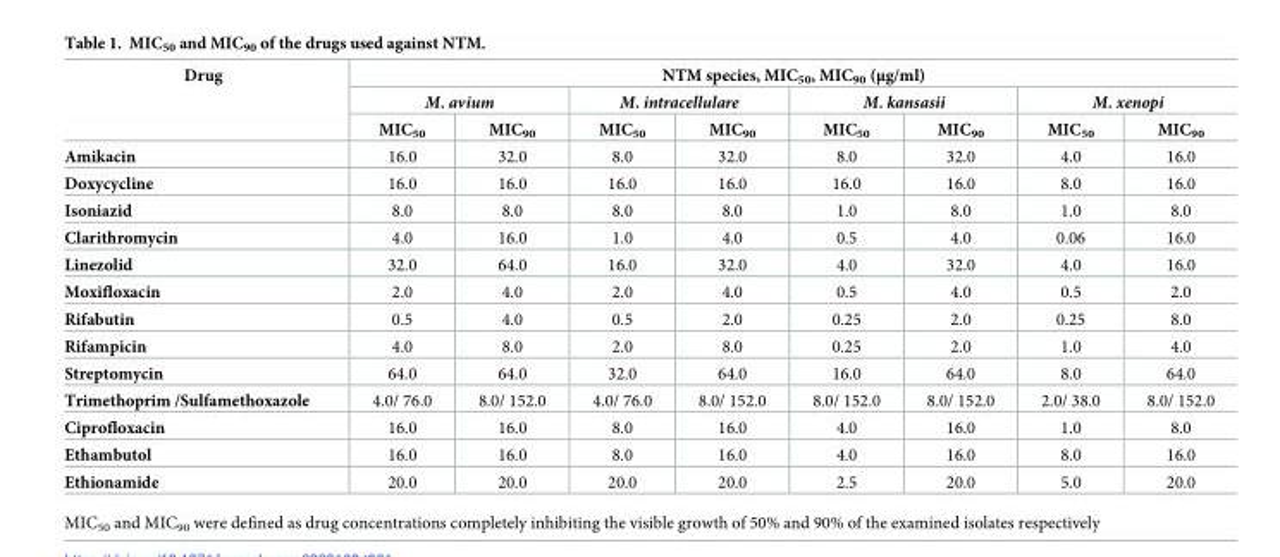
<table><thead><tr><td rowspan="3">Drug</td><td colspan="8">NTM species, MIC<sub>50</sub>, MIC<sub>90</sub> (μg/ml)</td></tr><tr><td colspan="2">M. avium</td><td colspan="2">M. intracellulare</td><td colspan="2">M. kansasii</td><td colspan="2">M. xenopi</td></tr><tr><td>MIC<sub>50</sub></td><td>MIC<sub>90</sub></td><td>MIC<sub>50</sub></td><td>MIC<sub>90</sub></td><td>MIC<sub>50</sub></td><td>MIC<sub>90</sub></td><td>MIC<sub>50</sub></td><td>MIC<sub>90</sub></td></tr></thead><tbody><tr><td>Amikacin</td><td>16.0</td><td>32.0</td><td>8.0</td><td>32.0</td><td>8.0</td><td>32.0</td><td>4.0</td><td>16.0</td></tr><tr><td>Doxycycline</td><td>16.0</td><td>16.0</td><td>16.0</td><td>16.0</td><td>16.0</td><td>16.0</td><td>8.0</td><td>16.0</td></tr><tr><td>Isoniazid</td><td>8.0</td><td>8.0</td><td>8.0</td><td>8.0</td><td>1.0</td><td>8.0</td><td>1.0</td><td>8.0</td></tr><tr><td>Clarithromycin</td><td>4.0</td><td>16.0</td><td>1.0</td><td>4.0</td><td>0.5</td><td>4.0</td><td>0.06</td><td>16.0</td></tr><tr><td>Linezolid</td><td>32.0</td><td>64.0</td><td>16.0</td><td>32.0</td><td>4.0</td><td>32.0</td><td>4.0</td><td>16.0</td></tr><tr><td>Moxifloxacin</td><td>2.0</td><td>4.0</td><td>2.0</td><td>4.0</td><td>0.5</td><td>4.0</td><td>0.5</td><td>2.0</td></tr><tr><td>Rifabutin</td><td>0.5</td><td>4.0</td><td>0.5</td><td>2.0</td><td>0.25</td><td>2.0</td><td>0.25</td><td>8.0</td></tr><tr><td>Rifampicin</td><td>4.0</td><td>8.0</td><td>2.0</td><td>8.0</td><td>0.25</td><td>2.0</td><td>1.0</td><td>4.0</td></tr><tr><td>Streptomycin</td><td>64.0</td><td>64.0</td><td>32.0</td><td>64.0</td><td>16.0</td><td>64.0</td><td>8.0</td><td>64.0</td></tr><tr><td>Trimethoprim /Sulfamethoxazole</td><td>4.0/ 76.0</td><td>8.0/ 152.0</td><td>4.0/ 76.0</td><td>8.0/ 152.0</td><td>8.0/ 152.0</td><td>8.0/ 152.0</td><td>2.0/ 38.0</td><td>8.0/ 152.0</td></tr><tr><td>Ciprofloxacin</td><td>16.0</td><td>16.0</td><td>8.0</td><td>16.0</td><td>4.0</td><td>16.0</td><td>1.0</td><td>8.0</td></tr><tr><td>Ethambutol</td><td>16.0</td><td>16.0</td><td>8.0</td><td>16.0</td><td>4.0</td><td>16.0</td><td>8.0</td><td>16.0</td></tr><tr><td>Ethionamide</td><td>20.0</td><td>20.0</td><td>20.0</td><td>20.0</td><td>2.5</td><td>20.0</td><td>5.0</td><td>20.0</td></tr></tbody></table>